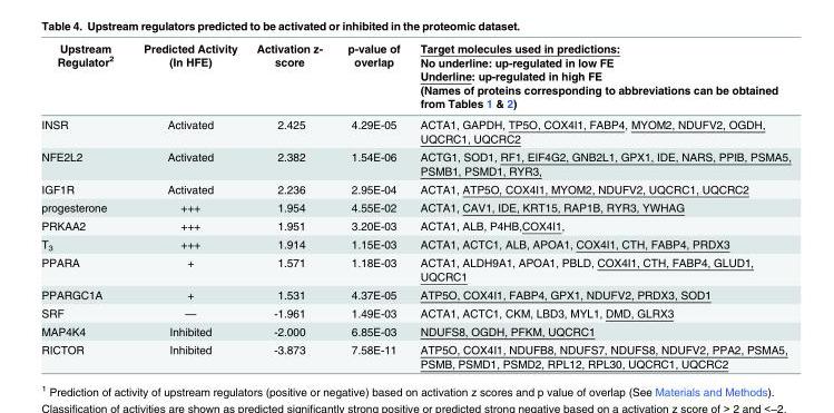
<table><thead><tr><td>Upstream Regulator<sup>2</sup></td><td>Predicted Activity (In HFE)</td><td>Activation z- score</td><td>p-value of overlap</td><td>Target molecules used in predictions: No underline: up-regulated in low FE Underline: up-regulated in high FE (Names of proteins corresponding to abbreviations can be obtained from Tables 1 &amp; 2)</td></tr></thead><tbody><tr><td>INSR</td><td>Activated</td><td>2.425</td><td>4.29E-05</td><td>ACTA1, GAPDH, TP5O, COX4I1, FABP4, MYOM2, NDUFV2, OGDH, UQCRC1, UQCRC2</td></tr><tr><td>NFE2L2</td><td>Activated</td><td>2.382</td><td>1.54E-06</td><td>ACTG1, SOD1, RF1, EIF4G2, GNB2L1, GPX1, IDE, NARS, PPIB, PSMA5, PSMB1, PSMD1, RYR3,</td></tr><tr><td>IGF1R</td><td>Activated</td><td>2.236</td><td>2.95E-04</td><td>ACTA1, ATP5O, COX4I1, MYOM2, NDUFV2, UQCRC1, UQCRC2</td></tr><tr><td>progesterone</td><td>+++</td><td>1.954</td><td>4.55E-02</td><td>ACTA1, CAV1, IDE, KRT15, RAP1B, RYR3, YWHAG</td></tr><tr><td>PRKAA2</td><td>+++</td><td>1.951</td><td>3.20E-03</td><td>ACTA1, ALB, P4HB,COX4I1,</td></tr><tr><td>T<sub>3</sub></td><td>+++</td><td>1.914</td><td>1.15E-03</td><td>ACTA1, ACTC1, ALB, APOA1, COX4I1, CTH, FABP4, PRDX3</td></tr><tr><td>PPARA</td><td>+</td><td>1.571</td><td>1.18E-03</td><td>ACTA1, ALDH9A1, APOA1, PBLD, COX4I1, CTH, FABP4, GLUD1, UQCRC1</td></tr><tr><td>PPARGC1A</td><td>+</td><td>1.531</td><td>4.37E-05</td><td>ATP5O, COX4I1, FABP4, GPX1, NDUFV2, PRDX3, SOD1</td></tr><tr><td>SRF</td><td>—</td><td>-1.961</td><td>1.49E-03</td><td>ACTA1, ACTC1, CKM, LBD3, MYL1, DMD, GLRX3</td></tr><tr><td>MAP4K4</td><td>Inhibited</td><td>-2.000</td><td>6.85E-03</td><td>NDUFS8, OGDH, PFKM, UQCRC1</td></tr><tr><td>RICTOR</td><td>Inhibited</td><td>-3.873</td><td>7.58E-11</td><td>ATP5O, COX4I1, NDUFB8, NDUFS7, NDUFS8, NDUFV2, PPA2, PSMA5, PSMB, PSMD1, PSMD2, RPL12, RPL30, UQCRC1, UQCRC2</td></tr></tbody></table>